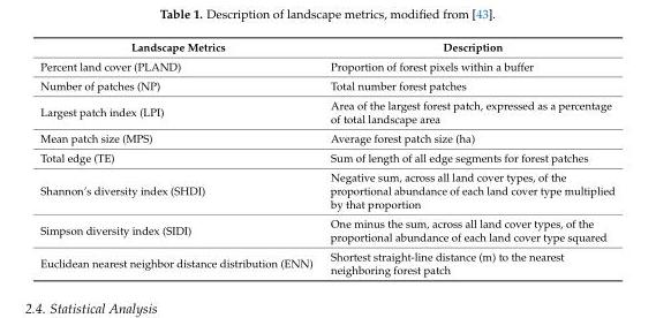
<table><thead><tr><td>Landscape Metrics</td><td>Description</td></tr></thead><tbody><tr><td>Percent land cover (PLAND)</td><td>Proportion of forest pixels within a buffer</td></tr><tr><td>Number of patches (NP)</td><td>Total number forest patches</td></tr><tr><td>Largest patch index (LPI)</td><td>Area of the largest forest patch, expressed as a percentage of total landscape area</td></tr><tr><td>Mean patch size (MPS)</td><td>Average forest patch size (ha)</td></tr><tr><td>Total edge (TE)</td><td>Sum of length of all edge segments for forest patches</td></tr><tr><td>Shannon’s diversity index (SHDI)</td><td>Negative sum, across all land cover types, of the proportional abundance of each land cover type multiplied by that proportion</td></tr><tr><td>Simpson diversity index (SIDI)</td><td>One minus the sum, across all land cover types, of the proportional abundance of each land cover type squared</td></tr><tr><td>Euclidean nearest neighbor distance distribution (ENN)</td><td>Shortest straight-line distance (m) to the nearest neighboring forest patch</td></tr></tbody></table>